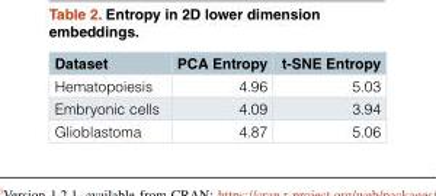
<table><thead><tr><td>Dataset</td><td>PCA Entropy</td><td>t-SNE Entropy</td></tr></thead><tbody><tr><td>Hematopoiesis</td><td>4.96</td><td>5.03</td></tr><tr><td>Embryonic cells</td><td>4.09</td><td>3.94</td></tr><tr><td>Glioblastoma</td><td>4.87</td><td>5.06</td></tr></tbody></table>